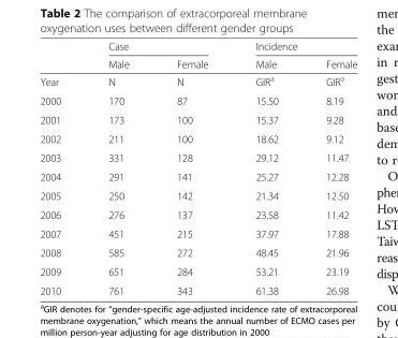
<table><thead><tr><td rowspan="2"></td><td colspan="2">Case</td><td colspan="2">Incidence</td></tr><tr><td>Male</td><td>Female</td><td>Male</td><td>Female</td></tr></thead><tbody><tr><td>Year</td><td>N</td><td>N</td><td>GIR<sup>a</sup></td><td>GIR<sup>a</sup></td></tr><tr><td>2000</td><td>170</td><td>87</td><td>15.50</td><td>8.19</td></tr><tr><td>2001</td><td>173</td><td>100</td><td>15.37</td><td>9.28</td></tr><tr><td>2002</td><td>211</td><td>100</td><td>18.62</td><td>9.12</td></tr><tr><td>2003</td><td>331</td><td>128</td><td>29.12</td><td>11.47</td></tr><tr><td>2004</td><td>291</td><td>141</td><td>25.27</td><td>12.28</td></tr><tr><td>2005</td><td>250</td><td>142</td><td>21.34</td><td>12.50</td></tr><tr><td>2006</td><td>276</td><td>137</td><td>23.58</td><td>11.42</td></tr><tr><td>2007</td><td>451</td><td>215</td><td>37.97</td><td>17.88</td></tr><tr><td>2008</td><td>585</td><td>272</td><td>48.45</td><td>21.96</td></tr><tr><td>2009</td><td>651</td><td>284</td><td>53.21</td><td>23.19</td></tr><tr><td>2010</td><td>761</td><td>343</td><td>61.38</td><td>26.98</td></tr></tbody></table>